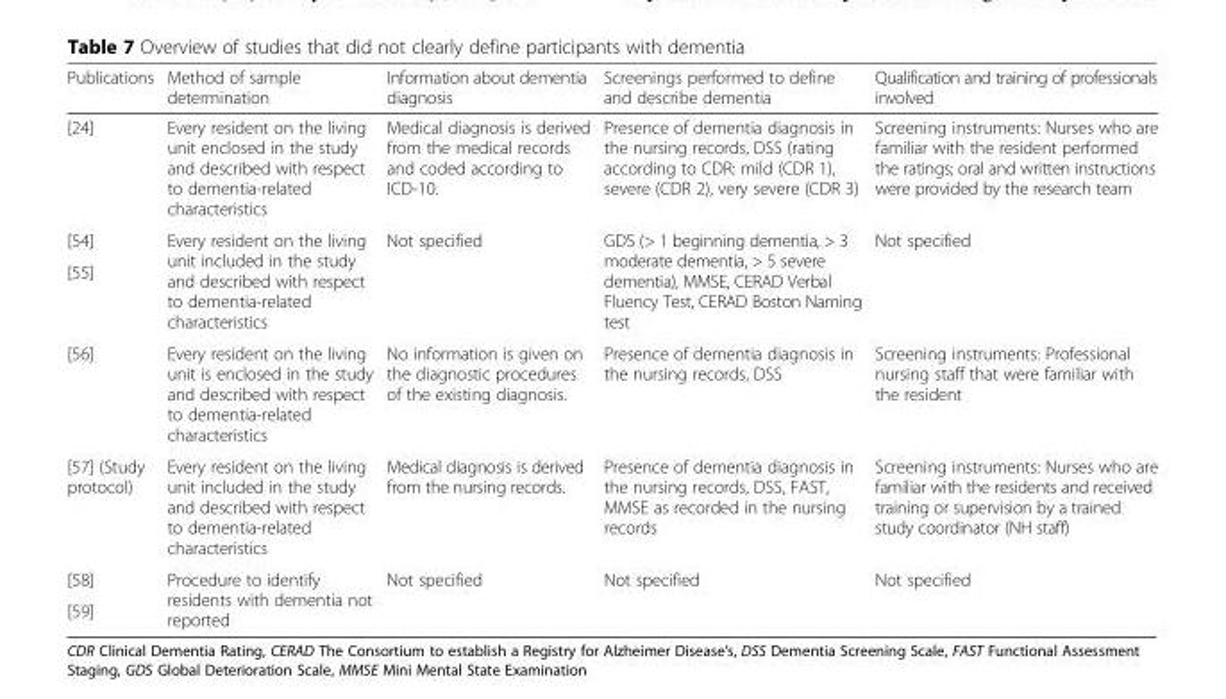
<table><thead><tr><td>Publications</td><td>Method of sample determination</td><td>Information about dementia diagnosis</td><td>Screenings performed to define and describe dementia</td><td>Qualification and training of professionals involved</td></tr></thead><tbody><tr><td>[24]</td><td>Every resident on the living unit enclosed in the study and described with respect to dementia-related characteristics</td><td>Medical diagnosis is derived from the medical records and coded according to ICD-10.</td><td>Presence of dementia diagnosis in the nursing records, DSS (rating according to CDR: mild (CDR 1), severe (CDR 2), very severe (CDR 3)</td><td>Screening instruments: Nurses who are familiar with the resident performed the ratings; oral and written instructions were provided by the research team</td></tr><tr><td>[54]</td><td rowspan="2">Every resident on the living unit included in the study and described with respect to dementia-related characteristics</td><td rowspan="2">Not specified</td><td rowspan="2">GDS (&gt; 1 beginning dementia, &gt; 3 moderate dementia, &gt; 5 severe dementia), MMSE, CERAD Verbal Fluency Test, CERAD Boston Naming test</td><td rowspan="2">Not specified</td></tr><tr><td>[55]</td></tr><tr><td>[56]</td><td>Every resident on the living unit is enclosed in the study and described with respect to dementia-related characteristics</td><td>No information is given on the diagnostic procedures of the existing diagnosis.</td><td>Presence of dementia diagnosis in the nursing records, DSS</td><td>Screening instruments: Professional nursing staff that were familiar with the resident</td></tr><tr><td>[57] (Study protocol)</td><td>Every resident on the living unit included in the study and described with respect to dementia-related characteristics</td><td>Medical diagnosis is derived from the nursing records.</td><td>Presence of dementia diagnosis in the nursing records, DSS, FAST, MMSE as recorded in the nursing records</td><td>Screening instruments: Nurses who are familiar with the residents and received training or supervision by a trained study coordinator (NH staff)</td></tr><tr><td>[58]</td><td rowspan="2">Procedure to identify residents with dementia not reported</td><td rowspan="2">Not specified</td><td rowspan="2">Not specified</td><td rowspan="2">Not specified</td></tr><tr><td>[59]</td></tr></tbody></table>